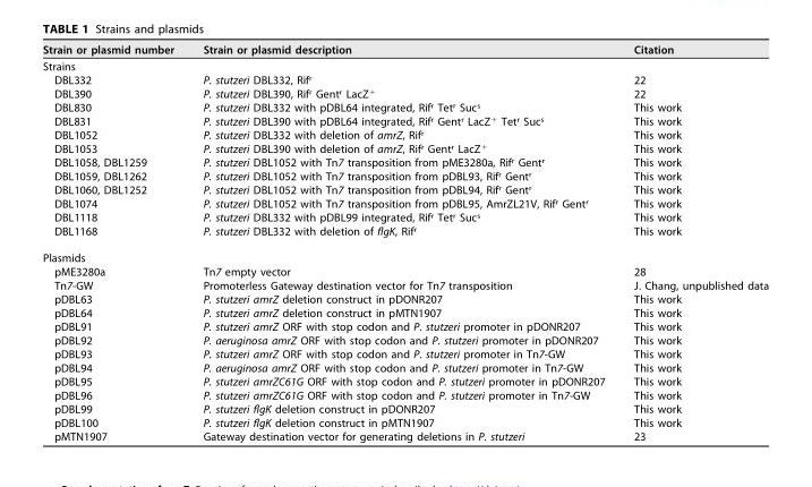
<table><thead><tr><td>Strain or plasmid number</td><td>Strain or plasmid description</td><td>Citation</td></tr></thead><tbody><tr><td colspan="3">Strains</td></tr><tr><td>DBL332</td><td>P. stutzeri DBL332, Rif<sup>r</sup></td><td>22</td></tr><tr><td>DBL390</td><td>P. stutzeri DBL390, Rif<sup>r</sup> Gent<sup>r</sup> LacZ<sup>+</sup></td><td>22</td></tr><tr><td>DBL830</td><td>P. stutzeri DBL332 with pDBL64 integrated, Rif<sup>r</sup> Tet<sup>r</sup> Suc<sup>s</sup></td><td>This work</td></tr><tr><td>DBL831</td><td>P. stutzeri DBL390 with pDBL64 integrated, Rif<sup>r</sup> Gent<sup>r</sup> LacZ<sup>+</sup> Tet<sup>r</sup> Suc<sup>s</sup></td><td>This work</td></tr><tr><td>DBL1052</td><td>P. stutzeri DBL332 with deletion of amrZ, Rif<sup>r</sup></td><td>This work</td></tr><tr><td>DBL1053</td><td>P. stutzeri DBL390 with deletion of amrZ, Rif<sup>r</sup> Gent<sup>r</sup> LacZ<sup>+</sup></td><td>This work</td></tr><tr><td>DBL1058, DBL1259</td><td>P. stutzeri DBL1052 with Tn7 transposition from pME3280a, Rif<sup>r</sup> Gent<sup>r</sup></td><td>This work</td></tr><tr><td>DBL1059, DBL1262</td><td>P. stutzeri DBL1052 with Tn7 transposition from pDBL93, Rif<sup>r</sup> Gent<sup>r</sup></td><td>This work</td></tr><tr><td>DBL1060, DBL1252</td><td>P. stutzeri DBL1052 with Tn7 transposition from pDBL94, Rif<sup>r</sup> Gent<sup>r</sup></td><td>This work</td></tr><tr><td>DBL1074</td><td>P. stutzeri DBL1052 with Tn7 transposition from pDBL95, AmrZL21V, Rif<sup>r</sup> Gent<sup>r</sup></td><td>This work</td></tr><tr><td>DBL1118</td><td>P. stutzeri DBL332 with pDBL99 integrated, Rif<sup>r</sup> Tet<sup>r</sup> Suc<sup>s</sup></td><td>This work</td></tr><tr><td>DBL1168</td><td>P. stutzeri DBL332 with deletion of flgK, Rif<sup>r</sup></td><td>This work</td></tr><tr><td colspan="3">Plasmids</td></tr><tr><td>pME3280a</td><td>Tn7 empty vector</td><td>28</td></tr><tr><td>Tn7-GW</td><td>Promoterless Gateway destination vector for Tn7 transposition</td><td>J. Chang, unpublished data</td></tr><tr><td>pDBL63</td><td>P. stutzeri amrZ deletion construct in pDONR207</td><td>This work</td></tr><tr><td>pDBL64</td><td>P. stutzeri amrZ deletion construct in pMTN1907</td><td>This work</td></tr><tr><td>pDBL91</td><td>P. stutzeri amrZ ORF with stop codon and P. stutzeri promoter in pDONR207</td><td>This work</td></tr><tr><td>pDBL92</td><td>P. aeruginosa amrZ ORF with stop codon and P. stutzeri promoter in pDONR207</td><td>This work</td></tr><tr><td>pDBL93</td><td>P. stutzeri amrZ ORF with stop codon and P. stutzeri promoter in Tn7-GW</td><td>This work</td></tr><tr><td>pDBL94</td><td>P. aeruginosa amrZ ORF with stop codon and P. stutzeri promoter in Tn7-GW</td><td>This work</td></tr><tr><td>pDBL95</td><td>P. stutzeri amrZC61G ORF with stop codon and P. stutzeri promoter in pDONR207</td><td>This work</td></tr><tr><td>pDBL96</td><td>P. stutzeri amrZC61G ORF with stop codon and P. stutzeri promoter in Tn7-GW</td><td>This work</td></tr><tr><td>pDBL99</td><td>P. stutzeri flgK deletion construct in pDONR207</td><td>This work</td></tr><tr><td>pDBL100</td><td>P. stutzeri flgK deletion construct in pMTN1907</td><td>This work</td></tr><tr><td>pMTN1907</td><td>Gateway destination vector for generating deletions in P. stutzeri</td><td>23</td></tr></tbody></table>